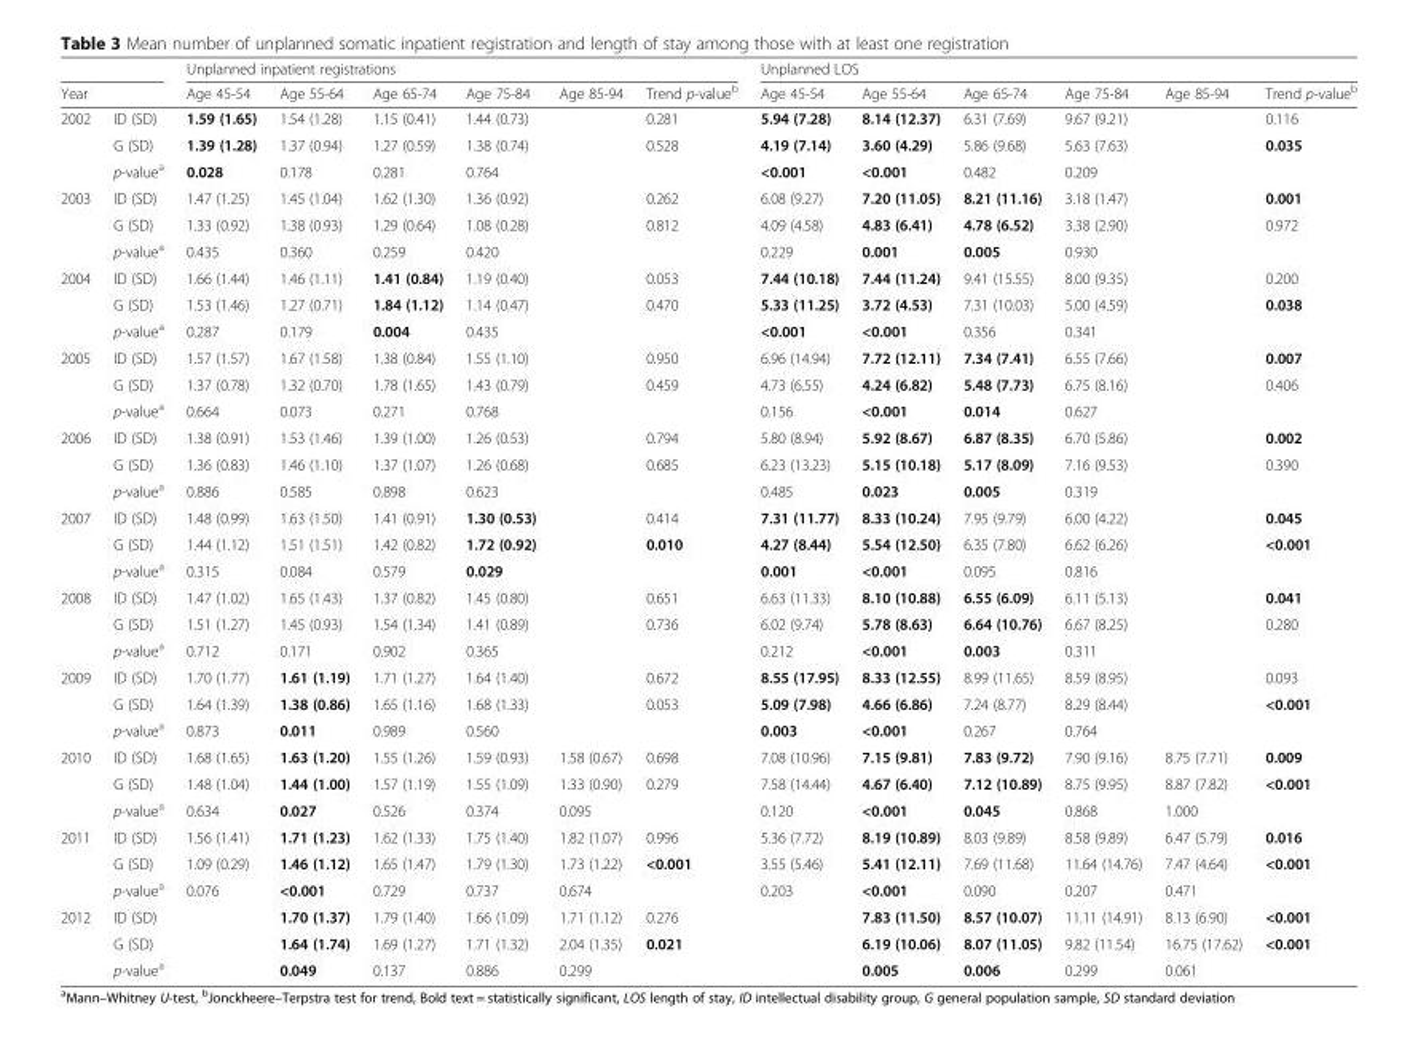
<table><thead><tr><td rowspan="2">Year</td><td rowspan="2"></td><td colspan="6">Unplanned inpatient registrations</td><td colspan="6">Unplanned LOS</td></tr><tr><td>Age 45-54</td><td>Age 55-64</td><td>Age 65-74</td><td>Age 75-84</td><td>Age 85-94</td><td>Trend p-value<sup>b</sup></td><td>Age 45-54</td><td>Age 55-64</td><td>Age 65-74</td><td>Age 75-84</td><td>Age 85-94</td><td>Trend p-value<sup>b</sup></td></tr></thead><tbody><tr><td rowspan="3">2002</td><td>ID (SD)</td><td>1.59 (1.65)</td><td>1.54 (1.28)</td><td>1.15 (0.41)</td><td>1.44 (0.73)</td><td></td><td>0.281</td><td>5.94 (7.28)</td><td>8.14 (12.37)</td><td>6.31 (7.69)</td><td>9.67 (9.21)</td><td></td><td>0.116</td></tr><tr><td>G (SD)</td><td>1.39 (1.28)</td><td>1.37 (0.94)</td><td>1.27 (0.59)</td><td>1.38 (0.74)</td><td></td><td>0.528</td><td>4.19 (7.14)</td><td>3.60 (4.29)</td><td>5.86 (9.68)</td><td>5.63 (7.63)</td><td></td><td>0.035</td></tr><tr><td>p-value<sup>a</sup></td><td>0.028</td><td>0.178</td><td>0.281</td><td>0.764</td><td></td><td></td><td>&lt;0.001</td><td>&lt;0.001</td><td>0.482</td><td>0.209</td><td></td><td></td></tr><tr><td rowspan="3">2003</td><td>ID (SD)</td><td>1.47 (1.25)</td><td>1.45 (1.04)</td><td>1.62 (1.30)</td><td>1.36 (0.92)</td><td></td><td>0.262</td><td>6.08 (9.27)</td><td>7.20 (11.05)</td><td>8.21 (11.16)</td><td>3.18 (1.47)</td><td></td><td>0.001</td></tr><tr><td>G (SD)</td><td>1.33 (0.92)</td><td>1.38 (0.93)</td><td>1.29 (0.64)</td><td>1.08 (0.28)</td><td></td><td>0.812</td><td>4.09 (4.58)</td><td>4.83 (6.41)</td><td>4.78 (6.52)</td><td>3.38 (2.90)</td><td></td><td>0.972</td></tr><tr><td>p-value<sup>a</sup></td><td>0.435</td><td>0.360</td><td>0.259</td><td>0.420</td><td></td><td></td><td>0.229</td><td>0.001</td><td>0.005</td><td>0.930</td><td></td><td></td></tr><tr><td rowspan="3">2004</td><td>ID (SD)</td><td>1.66 (1.44)</td><td>1.46 (1.11)</td><td>1.41 (0.84)</td><td>1.19 (0.40)</td><td></td><td>0.053</td><td>7.44 (10.18)</td><td>7.44 (11.24)</td><td>9.41 (15.55)</td><td>8.00 (9.35)</td><td></td><td>0.200</td></tr><tr><td>G (SD)</td><td>1.53 (1.46)</td><td>1.27 (0.71)</td><td>1.84 (1.12)</td><td>1.14 (0.47)</td><td></td><td>0.470</td><td>5.33 (11.25)</td><td>3.72 (4.53)</td><td>7.31 (10.03)</td><td>5.00 (4.59)</td><td></td><td>0.038</td></tr><tr><td>p-value<sup>a</sup></td><td>0.287</td><td>0.179</td><td>0.004</td><td>0.435</td><td></td><td></td><td>&lt;0.001</td><td>&lt;0.001</td><td>0.356</td><td>0.341</td><td></td><td></td></tr><tr><td rowspan="3">2005</td><td>ID (SD)</td><td>1.57 (1.57)</td><td>1.67 (1.58)</td><td>1.38 (0.84)</td><td>1.55 (1.10)</td><td></td><td>0.950</td><td>6.96 (14.94)</td><td>7.72 (12.11)</td><td>7.34 (7.41)</td><td>6.55 (7.66)</td><td></td><td>0.007</td></tr><tr><td>G (SD)</td><td>1.37 (0.78)</td><td>1.32 (0.70)</td><td>1.78 (1.65)</td><td>1.43 (0.79)</td><td></td><td>0.459</td><td>4.73 (6.55)</td><td>4.24 (6.82)</td><td>5.48 (7.73)</td><td>6.75 (8.16)</td><td></td><td>0.406</td></tr><tr><td>p-value<sup>a</sup></td><td>0.664</td><td>0.073</td><td>0.271</td><td>0.768</td><td></td><td></td><td>0.156</td><td>&lt;0.001</td><td>0.014</td><td>0.627</td><td></td><td></td></tr><tr><td rowspan="3">2006</td><td>ID (SD)</td><td>1.38 (0.91)</td><td>1.53 (1.46)</td><td>1.39 (1.00)</td><td>1.26 (0.53)</td><td></td><td>0.794</td><td>5.80 (8.94)</td><td>5.92 (8.67)</td><td>6.87 (8.35)</td><td>6.70 (5.86)</td><td></td><td>0.002</td></tr><tr><td>G (SD)</td><td>1.36 (0.83)</td><td>1.46 (1.10)</td><td>1.37 (1.07)</td><td>1.26 (0.68)</td><td></td><td>0.685</td><td>6.23 (13.23)</td><td>5.15 (10.18)</td><td>5.17 (8.09)</td><td>7.16 (9.53)</td><td></td><td>0.390</td></tr><tr><td>p-value<sup>a</sup></td><td>0.886</td><td>0.585</td><td>0.898</td><td>0.623</td><td></td><td></td><td>0.485</td><td>0.023</td><td>0.005</td><td>0.319</td><td></td><td></td></tr><tr><td rowspan="3">2007</td><td>ID (SD)</td><td>1.48 (0.99)</td><td>1.63 (1.50)</td><td>1.41 (0.91)</td><td>1.30 (0.53)</td><td></td><td>0.414</td><td>7.31 (11.77)</td><td>8.33 (10.24)</td><td>7.95 (9.79)</td><td>6.00 (4.22)</td><td></td><td>0.045</td></tr><tr><td>G (SD)</td><td>1.44 (1.12)</td><td>1.51 (1.51)</td><td>1.42 (0.82)</td><td>1.72 (0.92)</td><td></td><td>0.010</td><td>4.27 (8.44)</td><td>5.54 (12.50)</td><td>6.35 (7.80)</td><td>6.62 (6.26)</td><td></td><td>&lt;0.001</td></tr><tr><td>p-value<sup>a</sup></td><td>0.315</td><td>0.084</td><td>0.579</td><td>0.029</td><td></td><td></td><td>0.001</td><td>&lt;0.001</td><td>0.095</td><td>0.816</td><td></td><td></td></tr><tr><td rowspan="3">2008</td><td>ID (SD)</td><td>1.47 (1.02)</td><td>1.65 (1.43)</td><td>1.37 (0.82)</td><td>1.45 (0.80)</td><td></td><td>0.651</td><td>6.63 (11.33)</td><td>8.10 (10.88)</td><td>6.55 (6.09)</td><td>6.11 (5.13)</td><td></td><td>0.041</td></tr><tr><td>G (SD)</td><td>1.51 (1.27)</td><td>1.45 (0.93)</td><td>1.54 (1.34)</td><td>1.41 (0.89)</td><td></td><td>0.736</td><td>6.02 (9.74)</td><td>5.78 (8.63)</td><td>6.64 (10.76)</td><td>6.67 (8.25)</td><td></td><td>0.280</td></tr><tr><td>p-value<sup>a</sup></td><td>0.712</td><td>0.171</td><td>0.902</td><td>0.365</td><td></td><td></td><td>0.212</td><td>&lt;0.001</td><td>0.003</td><td>0.311</td><td></td><td></td></tr><tr><td rowspan="3">2009</td><td>ID (SD)</td><td>1.70 (1.77)</td><td>1.61 (1.19)</td><td>1.71 (1.27)</td><td>1.64 (1.40)</td><td></td><td>0.672</td><td>8.55 (17.95)</td><td>8.33 (12.55)</td><td>8.99 (11.65)</td><td>8.59 (8.95)</td><td></td><td>0.093</td></tr><tr><td>G (SD)</td><td>1.64 (1.39)</td><td>1.38 (0.86)</td><td>1.65 (1.16)</td><td>1.68 (1.33)</td><td></td><td>0.053</td><td>5.09 (7.98)</td><td>4.66 (6.86)</td><td>7.24 (8.77)</td><td>8.29 (8.44)</td><td></td><td>&lt;0.001</td></tr><tr><td>p-value<sup>a</sup></td><td>0.873</td><td>0.011</td><td>0.989</td><td>0.560</td><td></td><td></td><td>0.003</td><td>&lt;0.001</td><td>0.267</td><td>0.764</td><td></td><td></td></tr><tr><td rowspan="3">2010</td><td>ID (SD)</td><td>1.68 (1.65)</td><td>1.63 (1.20)</td><td>1.55 (1.26)</td><td>1.59 (0.93)</td><td>1.58 (0.67)</td><td>0.698</td><td>7.08 (10.96)</td><td>7.15 (9.81)</td><td>7.83 (9.72)</td><td>7.90 (9.16)</td><td>8.75 (7.71)</td><td>0.009</td></tr><tr><td>G (SD)</td><td>1.48 (1.04)</td><td>1.44 (1.00)</td><td>1.57 (1.19)</td><td>1.55 (1.09)</td><td>1.33 (0.90)</td><td>0.279</td><td>7.58 (14.44)</td><td>4.67 (6.40)</td><td>7.12 (10.89)</td><td>8.75 (9.95)</td><td>8.87 (7.82)</td><td>&lt;0.001</td></tr><tr><td>p-value<sup>a</sup></td><td>0.634</td><td>0.027</td><td>0.526</td><td>0.374</td><td>0.095</td><td></td><td>0.120</td><td>&lt;0.001</td><td>0.045</td><td>0.868</td><td>1.000</td><td></td></tr><tr><td rowspan="3">2011</td><td>ID (SD)</td><td>1.56 (1.41)</td><td>1.71 (1.23)</td><td>1.62 (1.33)</td><td>1.75 (1.40)</td><td>1.82 (1.07)</td><td>0.996</td><td>5.36 (7.72)</td><td>8.19 (10.89)</td><td>8.03 (9.89)</td><td>8.58 (9.89)</td><td>6.47 (5.79)</td><td>0.016</td></tr><tr><td>G (SD)</td><td>1.09 (0.29)</td><td>1.46 (1.12)</td><td>1.65 (1.47)</td><td>1.79 (1.30)</td><td>1.73 (1.22)</td><td>&lt;0.001</td><td>3.55 (5.46)</td><td>5.41 (12.11)</td><td>7.69 (11.68)</td><td>11.64 (14.76)</td><td>7.47 (4.64)</td><td>&lt;0.001</td></tr><tr><td>p-value<sup>a</sup></td><td>0.076</td><td>&lt;0.001</td><td>0.729</td><td>0.737</td><td>0.674</td><td></td><td>0.203</td><td>&lt;0.001</td><td>0.090</td><td>0.207</td><td>0.471</td><td></td></tr><tr><td rowspan="3">2012</td><td>ID (SD)</td><td></td><td>1.70 (1.37)</td><td>1.79 (1.40)</td><td>1.66 (1.09)</td><td>1.71 (1.12)</td><td>0.276</td><td></td><td>7.83 (11.50)</td><td>8.57 (10.07)</td><td>11.11 (14.91)</td><td>8.13 (6.90)</td><td>&lt;0.001</td></tr><tr><td>G (SD)</td><td></td><td>1.64 (1.74)</td><td>1.69 (1.27)</td><td>1.71 (1.32)</td><td>2.04 (1.35)</td><td>0.021</td><td></td><td>6.19 (10.06)</td><td>8.07 (11.05)</td><td>9.82 (11.54)</td><td>16.75 (17.62)</td><td>&lt;0.001</td></tr><tr><td>p-value<sup>a</sup></td><td></td><td>0.049</td><td>0.137</td><td>0.886</td><td>0.299</td><td></td><td></td><td>0.005</td><td>0.006</td><td>0.299</td><td>0.061</td><td></td></tr></tbody></table>